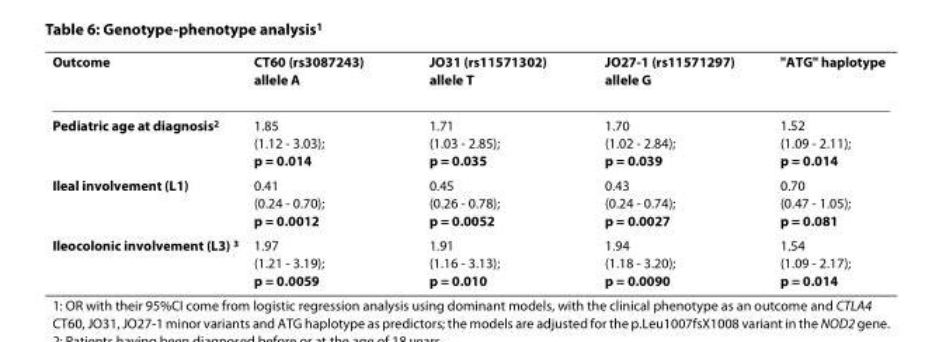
<table><thead><tr><td>Outcome</td><td>CT60 (rs3087243) allele A</td><td>JO31 (rs11571302) allele T</td><td>JO27-1 (rs11571297) allele G</td><td>&quot;ATG&quot; haplotype</td></tr></thead><tbody><tr><td>Pediatric age at diagnosis<sup>2</sup></td><td>1.85 (1.12 - 3.03); p = 0.014</td><td>1.71 (1.03 - 2.85); p = 0.035</td><td>1.70 (1.02 - 2.84); p = 0.039</td><td>1.52 (1.09 - 2.11); p = 0.014</td></tr><tr><td>Ileal involvement (L1)</td><td>0.41 (0.24 - 0.70); p = 0.0012</td><td>0.45 (0.26 - 0.78); p = 0.0052</td><td>0.43 (0.24 - 0.74); p = 0.0027</td><td>0.70 (0.47 - 1.05); p = 0.081</td></tr><tr><td>Ileocolonic involvement (L3) <sup>3</sup></td><td>1.97 (1.21 - 3.19); p = 0.0059</td><td>1.91 (1.16 - 3.13); p = 0.010</td><td>1.94 (1.18 - 3.20); p = 0.0090</td><td>1.54 (1.09 - 2.17); p = 0.014</td></tr></tbody></table>